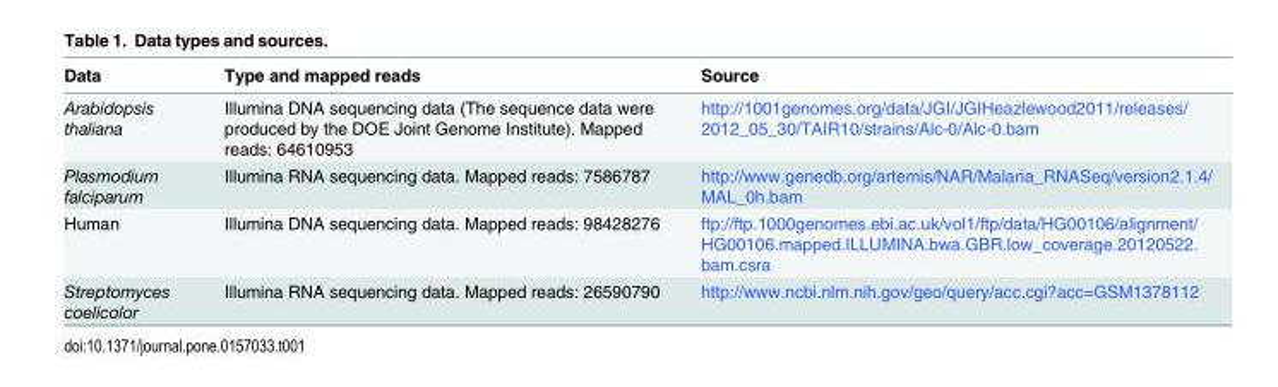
<table><thead><tr><td>Data</td><td>Type and mapped reads</td><td>Source</td></tr></thead><tbody><tr><td>Arabidopsis thaliana</td><td>Illumina DNA sequencing data (The sequence data were produced by the DOE Joint Genome Institute). Mapped reads: 64610953</td><td>http://1001genomes.org/data/JGI/JGIHeazlewood2011/releases/ 2012_05_30/TAIR10/strains/Alc-0/Alc-0.bam</td></tr><tr><td>Plasmodium falciparum</td><td>Illumina RNA sequencing data. Mapped reads: 7586787</td><td>http://www.genedb.org/artemis/NAR/Malaria_RNASeq/version2.1.4/ MAL_0h.bam</td></tr><tr><td>Human</td><td>Illumina DNA sequencing data. Mapped reads: 98428276</td><td>ftp://ftp.1000genomes.ebi.ac.uk/vol1/ftp/data/HG00106/alignment/ HG00106.mapped.ILLUMINA.bwa.GBR.low_coverage.20120522. bam.csra</td></tr><tr><td>Streptomyces coelicolor</td><td>Illumina RNA sequencing data. Mapped reads: 26590790</td><td>http://www.ncbi.nlm.nih.gov/geo/query/acc.cgi?acc=GSM1378112</td></tr></tbody></table>